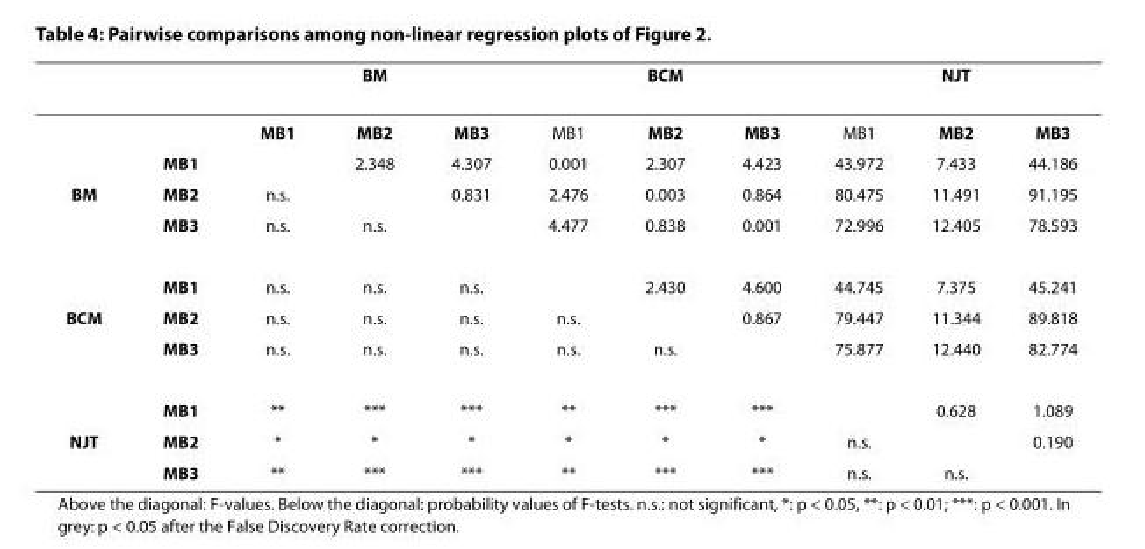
<table><thead><tr><td></td><td></td><td></td><td>BM</td><td></td><td></td><td>BCM</td><td></td><td></td><td>NJT</td><td></td></tr></thead><tbody><tr><td></td><td></td><td>MB1</td><td>MB2</td><td>MB3</td><td>MB1</td><td>MB2</td><td>MB3</td><td>MB1</td><td>MB2</td><td>MB3</td></tr><tr><td></td><td>MB1</td><td></td><td>2.348</td><td>4.307</td><td>0.001</td><td>2.307</td><td>4.423</td><td>43.972</td><td>7.433</td><td>44.186</td></tr><tr><td rowspan="3">BM</td><td>MB2</td><td>n.s.</td><td></td><td>0.831</td><td>2.476</td><td>0.003</td><td>0.864</td><td>80.475</td><td>11.491</td><td>91.195</td></tr><tr><td>MB3</td><td>n.s.</td><td>n.s.</td><td></td><td>4.477</td><td>0.838</td><td>0.001</td><td>72.996</td><td>12.405</td><td>78.593</td></tr><tr><td>MB1</td><td>n.s.</td><td>n.s.</td><td>n.s.</td><td></td><td>2.430</td><td>4.600</td><td>44.745</td><td>7.375</td><td>45.241</td></tr><tr><td rowspan="3">BCM</td><td>MB2</td><td>n.s.</td><td>n.s.</td><td>n.s.</td><td>n.s.</td><td></td><td>0.867</td><td>79.447</td><td>11.344</td><td>89.818</td></tr><tr><td>MB3</td><td>n.s.</td><td>n.s.</td><td>n.s.</td><td>n.s.</td><td>n.s.</td><td></td><td>75.877</td><td>12.440</td><td>82.774</td></tr><tr><td>MB1</td><td>**</td><td>***</td><td>***</td><td>**</td><td>***</td><td>***</td><td></td><td>0.628</td><td>1.089</td></tr><tr><td rowspan="2">NJT</td><td>MB2</td><td>*</td><td>*</td><td>*</td><td>*</td><td>*</td><td>*</td><td>n.s.</td><td></td><td>0.190</td></tr><tr><td>MB3</td><td>**</td><td>***</td><td>***</td><td>**</td><td>***</td><td>***</td><td>n.s.</td><td>n.s.</td><td></td></tr></tbody></table>